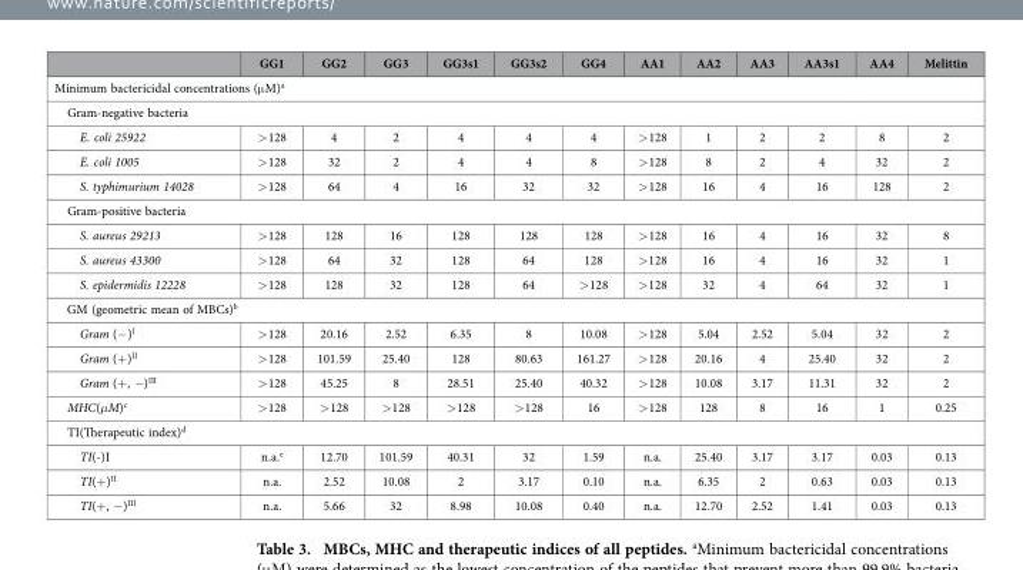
<table><thead><tr><td></td><td>GG1</td><td>GG2</td><td>GG3</td><td>GG3s1</td><td>GG3s2</td><td>GG4</td><td>AA1</td><td>AA2</td><td>AA3</td><td>AA3s1</td><td>AA4</td><td>Melittin</td></tr></thead><tbody><tr><td colspan="13">Minimum bactericidal concentrations (μ M)<sup>a</sup></td></tr><tr><td colspan="13">Gram-negative bacteria</td></tr><tr><td>E. coli 25922</td><td>&gt; 128</td><td>4</td><td>2</td><td>4</td><td>4</td><td>4</td><td>&gt; 128</td><td>1</td><td>2</td><td>2</td><td>8</td><td>2</td></tr><tr><td>E. coli 1005</td><td>&gt; 128</td><td>32</td><td>2</td><td>4</td><td>4</td><td>8</td><td>&gt; 128</td><td>8</td><td>2</td><td>4</td><td>32</td><td>2</td></tr><tr><td>S. typhimurium 14028</td><td>&gt; 128</td><td>64</td><td>4</td><td>16</td><td>32</td><td>32</td><td>&gt; 128</td><td>16</td><td>4</td><td>16</td><td>128</td><td>2</td></tr><tr><td colspan="13">Gram-positive bacteria</td></tr><tr><td>S. aureus 29213</td><td>&gt; 128</td><td>128</td><td>16</td><td>128</td><td>128</td><td>128</td><td>&gt; 128</td><td>16</td><td>4</td><td>16</td><td>32</td><td>8</td></tr><tr><td>S. aureus 43300</td><td>&gt; 128</td><td>64</td><td>32</td><td>128</td><td>64</td><td>128</td><td>&gt; 128</td><td>16</td><td>4</td><td>16</td><td>32</td><td>1</td></tr><tr><td>S. epidermidis 12228</td><td>&gt; 128</td><td>128</td><td>32</td><td>128</td><td>64</td><td>&gt; 128</td><td>&gt; 128</td><td>32</td><td>4</td><td>64</td><td>32</td><td>1</td></tr><tr><td colspan="13">GM (geometric mean of MBCs)<sup>b</sup></td></tr><tr><td>Gram (− )<sup>I</sup></td><td>&gt; 128</td><td>20.16</td><td>2.52</td><td>6.35</td><td>8</td><td>10.08</td><td>&gt; 128</td><td>5.04</td><td>2.52</td><td>5.04</td><td>32</td><td>2</td></tr><tr><td>Gram (+)<sup>II</sup></td><td>&gt; 128</td><td>101.59</td><td>25.40</td><td>128</td><td>80.63</td><td>161.27</td><td>&gt; 128</td><td>20.16</td><td>4</td><td>25.40</td><td>32</td><td>2</td></tr><tr><td>Gram (+, −)<sup>III</sup></td><td>&gt; 128</td><td>45.25</td><td>8</td><td>28.51</td><td>25.40</td><td>40.32</td><td>&gt; 128</td><td>10.08</td><td>3.17</td><td>11.31</td><td>32</td><td>2</td></tr><tr><td>MHC(μM)<sup>c</sup></td><td>&gt; 128</td><td>&gt; 128</td><td>&gt; 128</td><td>&gt; 128</td><td>&gt; 128</td><td>16</td><td>&gt; 128</td><td>128</td><td>8</td><td>16</td><td>1</td><td>0.25</td></tr><tr><td colspan="13">TI(Therapeutic index)<sup>d</sup></td></tr><tr><td>TI(-)I</td><td>n.a.<sup>e</sup></td><td>12.70</td><td>101.59</td><td>40.31</td><td>32</td><td>1.59</td><td>n.a.</td><td>25.40</td><td>3.17</td><td>3.17</td><td>0.03</td><td>0.13</td></tr><tr><td>TI(+)<sup>II</sup></td><td>n.a.</td><td>2.52</td><td>10.08</td><td>2</td><td>3.17</td><td>0.10</td><td>n.a.</td><td>6.35</td><td>2</td><td>0.63</td><td>0.03</td><td>0.13</td></tr><tr><td>TI(+, −)<sup>III</sup></td><td>n.a.</td><td>5.66</td><td>32</td><td>8.98</td><td>10.08</td><td>0.40</td><td>n.a.</td><td>12.70</td><td>2.52</td><td>1.41</td><td>0.03</td><td>0.13</td></tr></tbody></table>